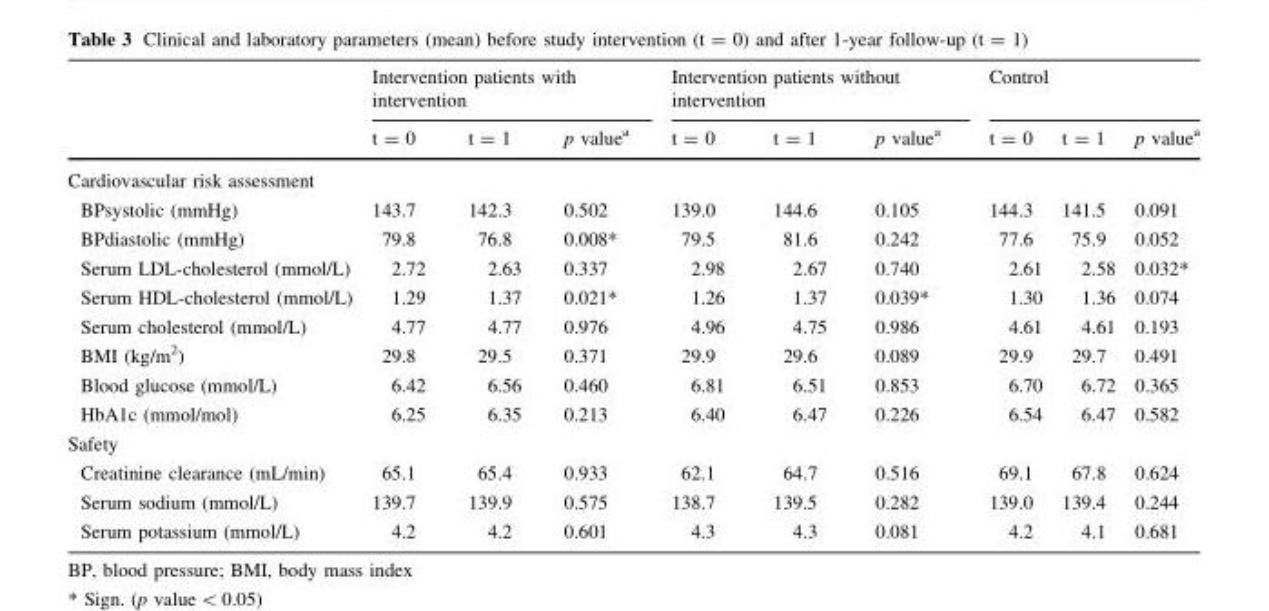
<table><thead><tr><td rowspan="2"></td><td colspan="3">Intervention patients with intervention</td><td colspan="3">Intervention patients without intervention</td><td colspan="3">Control</td></tr><tr><td>t = 0</td><td>t = 1</td><td>p value<sup>a</sup></td><td>t = 0</td><td>t = 1</td><td>p value<sup>a</sup></td><td>t = 0</td><td>t = 1</td><td>p value<sup>a</sup></td></tr></thead><tbody><tr><td colspan="10">Cardiovascular risk assessment</td></tr><tr><td>BPsystolic (mmHg)</td><td>143.7</td><td>142.3</td><td>0.502</td><td>139.0</td><td>144.6</td><td>0.105</td><td>144.3</td><td>141.5</td><td>0.091</td></tr><tr><td>BPdiastolic (mmHg)</td><td>79.8</td><td>76.8</td><td>0.008*</td><td>79.5</td><td>81.6</td><td>0.242</td><td>77.6</td><td>75.9</td><td>0.052</td></tr><tr><td>Serum LDL-cholesterol (mmol/L)</td><td>2.72</td><td>2.63</td><td>0.337</td><td>2.98</td><td>2.67</td><td>0.740</td><td>2.61</td><td>2.58</td><td>0.032*</td></tr><tr><td>Serum HDL-cholesterol (mmol/L)</td><td>1.29</td><td>1.37</td><td>0.021*</td><td>1.26</td><td>1.37</td><td>0.039*</td><td>1.30</td><td>1.36</td><td>0.074</td></tr><tr><td>Serum cholesterol (mmol/L)</td><td>4.77</td><td>4.77</td><td>0.976</td><td>4.96</td><td>4.75</td><td>0.986</td><td>4.61</td><td>4.61</td><td>0.193</td></tr><tr><td>BMI (kg/m<sup>2</sup>)</td><td>29.8</td><td>29.5</td><td>0.371</td><td>29.9</td><td>29.6</td><td>0.089</td><td>29.9</td><td>29.7</td><td>0.491</td></tr><tr><td>Blood glucose (mmol/L)</td><td>6.42</td><td>6.56</td><td>0.460</td><td>6.81</td><td>6.51</td><td>0.853</td><td>6.70</td><td>6.72</td><td>0.365</td></tr><tr><td>HbA1c (mmol/mol)</td><td>6.25</td><td>6.35</td><td>0.213</td><td>6.40</td><td>6.47</td><td>0.226</td><td>6.54</td><td>6.47</td><td>0.582</td></tr><tr><td colspan="10">Safety</td></tr><tr><td>Creatinine clearance (mL/min)</td><td>65.1</td><td>65.4</td><td>0.933</td><td>62.1</td><td>64.7</td><td>0.516</td><td>69.1</td><td>67.8</td><td>0.624</td></tr><tr><td>Serum sodium (mmol/L)</td><td>139.7</td><td>139.9</td><td>0.575</td><td>138.7</td><td>139.5</td><td>0.282</td><td>139.0</td><td>139.4</td><td>0.244</td></tr><tr><td>Serum potassium (mmol/L)</td><td>4.2</td><td>4.2</td><td>0.601</td><td>4.3</td><td>4.3</td><td>0.081</td><td>4.2</td><td>4.1</td><td>0.681</td></tr></tbody></table>